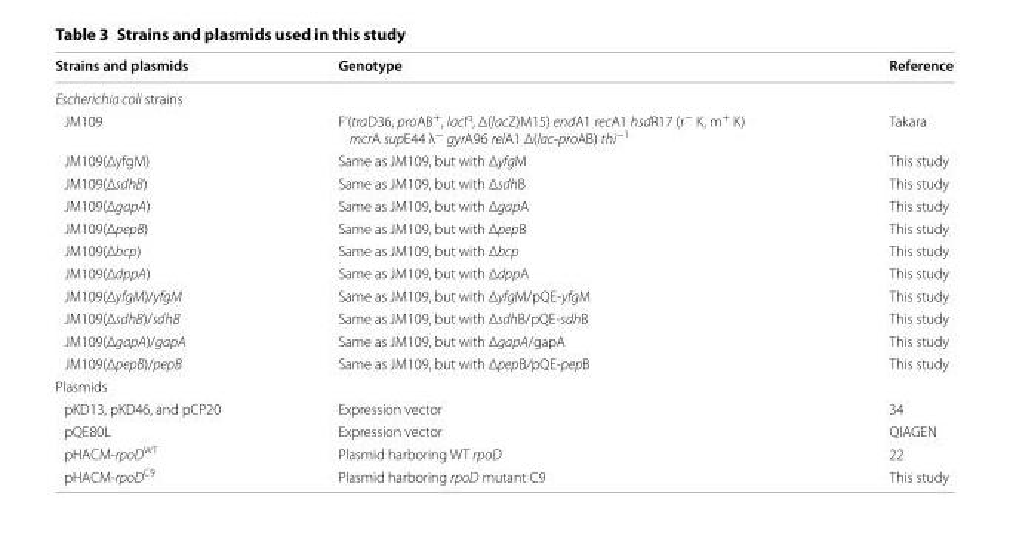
<table><thead><tr><td>Strains and plasmids</td><td>Genotype</td><td>Reference</td></tr></thead><tbody><tr><td colspan="3">Escherichia coli strains</td></tr><tr><td>JM109</td><td>F’(traD36, proAB<sup>+</sup>, lacI<sup>q</sup>, Δ(lacZ)M15) endA1 recA1 hsdR17 (r<sup>−</sup> K, m<sup>+</sup> K) mcrA supE44 λ<sup>−</sup> gyrA96 relA1 Δ(lac-proAB) thi<sup>−1</sup></td><td>Takara</td></tr><tr><td>JM109(ΔyfgM)</td><td>Same as JM109, but with ΔyfgM</td><td>This study</td></tr><tr><td>JM109(ΔsdhB)</td><td>Same as JM109, but with ΔsdhB</td><td>This study</td></tr><tr><td>JM109(ΔgapA)</td><td>Same as JM109, but with ΔgapA</td><td>This study</td></tr><tr><td>JM109(ΔpepB)</td><td>Same as JM109, but with ΔpepB</td><td>This study</td></tr><tr><td>JM109(Δbcp)</td><td>Same as JM109, but with Δbcp</td><td>This study</td></tr><tr><td>JM109(ΔdppA)</td><td>Same as JM109, but with ΔdppA</td><td>This study</td></tr><tr><td>JM109(ΔyfgM)/yfgM</td><td>Same as JM109, but with ΔyfgM/pQE-yfgM</td><td>This study</td></tr><tr><td>JM109(ΔsdhB)/sdhB</td><td>Same as JM109, but with ΔsdhB/pQE-sdhB</td><td>This study</td></tr><tr><td>JM109(ΔgapA)/gapA</td><td>Same as JM109, but with ΔgapA/gapA</td><td>This study</td></tr><tr><td>JM109(ΔpepB)/pepB</td><td>Same as JM109, but with ΔpepB/pQE-pepB</td><td>This study</td></tr><tr><td colspan="3">Plasmids</td></tr><tr><td>pKD13, pKD46, and pCP20</td><td>Expression vector</td><td>34</td></tr><tr><td>pQE80L</td><td>Expression vector</td><td>QIAGEN</td></tr><tr><td>pHACM-rpoD<sup>WT</sup></td><td>Plasmid harboring WT rpoD</td><td>22</td></tr><tr><td>pHACM-rpoD<sup>C9</sup></td><td>Plasmid harboring rpoD mutant C9</td><td>This study</td></tr></tbody></table>